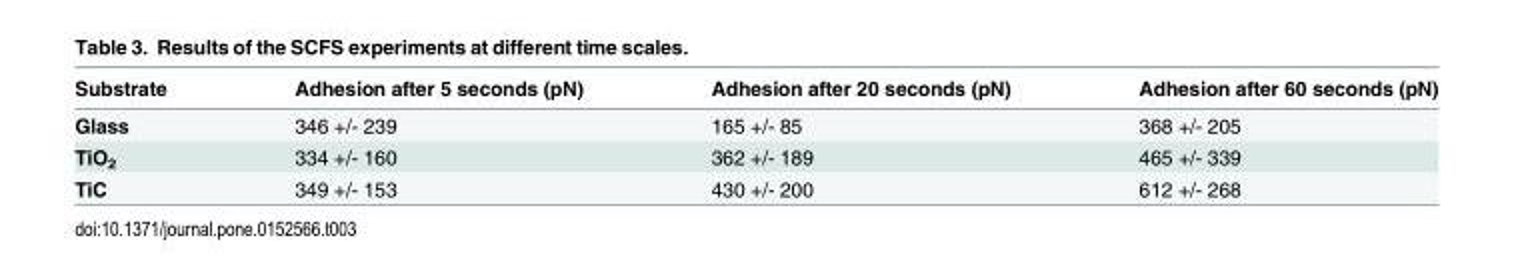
<table><thead><tr><td>Substrate</td><td>Adhesion after 5 seconds (pN)</td><td>Adhesion after 20 seconds (pN)</td><td>Adhesion after 60 seconds (pN)</td></tr></thead><tbody><tr><td>Glass</td><td>346 +/- 239</td><td>165 +/- 85</td><td>368 +/- 205</td></tr><tr><td>TiO<sub>2</sub></td><td>334 +/- 160</td><td>362 +/- 189</td><td>465 +/- 339</td></tr><tr><td>TiC</td><td>349 +/- 153</td><td>430 +/- 200</td><td>612 +/- 268</td></tr></tbody></table>